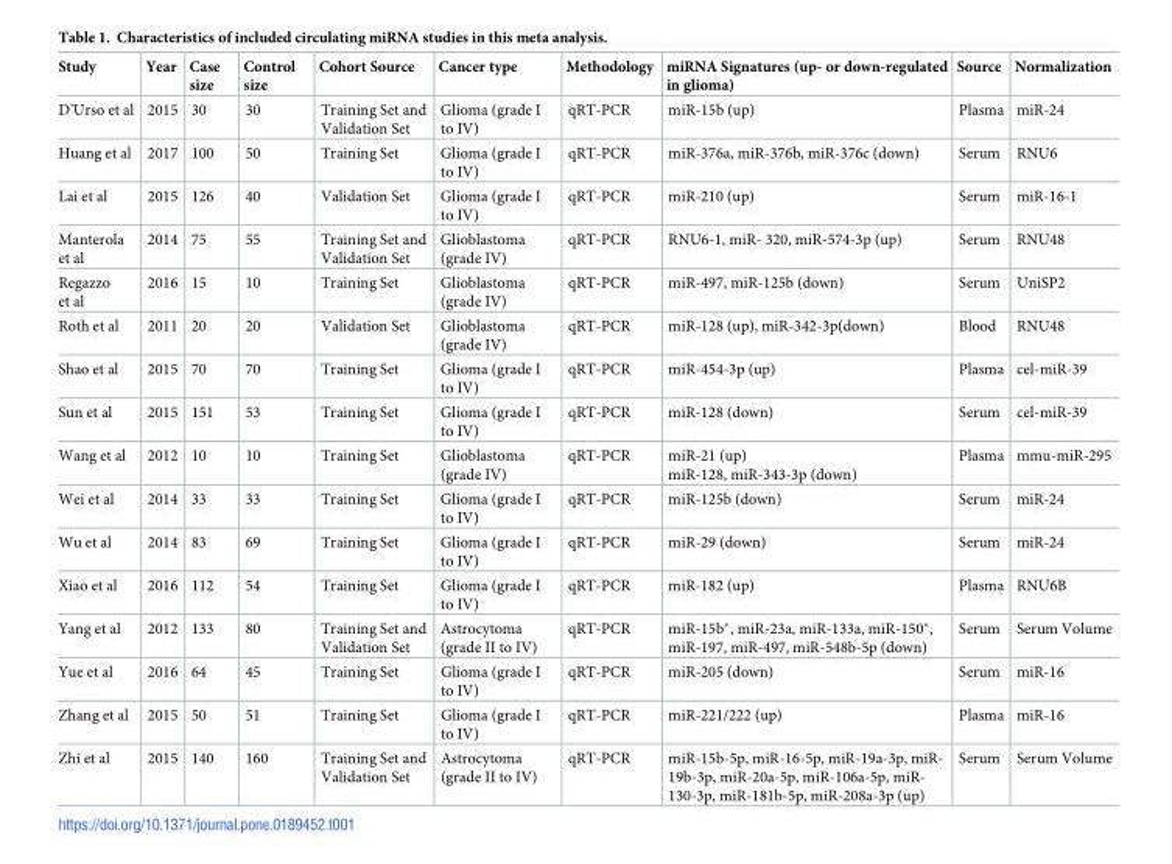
<table><thead><tr><td>Study</td><td>Year</td><td>Case size</td><td>Control size</td><td>Cohort Source</td><td>Cancer type</td><td>Methodology</td><td>miRNA Signatures (up- or down-regulated in glioma)</td><td>Source</td><td>Normalization</td></tr></thead><tbody><tr><td>D’Urso et al</td><td>2015</td><td>30</td><td>30</td><td>Training Set and Validation Set</td><td>Glioma (grade I to IV)</td><td>qRT-PCR</td><td>miR-15b (up)</td><td>Plasma</td><td>miR-24</td></tr><tr><td>Huang et al</td><td>2017</td><td>100</td><td>50</td><td>Training Set</td><td>Glioma (grade I to IV)</td><td>qRT-PCR</td><td>miR-376a, miR-376b, miR-376c (down)</td><td>Serum</td><td>RNU6</td></tr><tr><td>Lai et al</td><td>2015</td><td>126</td><td>40</td><td>Validation Set</td><td>Glioma (grade I to IV)</td><td>qRT-PCR</td><td>miR-210 (up)</td><td>Serum</td><td>miR-16-1</td></tr><tr><td>Manterola et al</td><td>2014</td><td>75</td><td>55</td><td>Training Set and Validation Set</td><td>Glioblastoma (grade IV)</td><td>qRT-PCR</td><td>RNU6-1, miR- 320, miR-574-3p (up)</td><td>Serum</td><td>RNU48</td></tr><tr><td>Regazzo et al</td><td>2016</td><td>15</td><td>10</td><td>Training Set</td><td>Glioblastoma (grade IV)</td><td>qRT-PCR</td><td>miR-497, miR-125b (down)</td><td>Serum</td><td>UniSP2</td></tr><tr><td>Roth et al</td><td>2011</td><td>20</td><td>20</td><td>Validation Set</td><td>Glioblastoma (grade IV)</td><td>qRT-PCR</td><td>miR-128 (up), miR-342-3p(down)</td><td>Blood</td><td>RNU48</td></tr><tr><td>Shao et al</td><td>2015</td><td>70</td><td>70</td><td>Training Set</td><td>Glioma (grade I to IV)</td><td>qRT-PCR</td><td>miR-454-3p (up)</td><td>Plasma</td><td>cel-miR-39</td></tr><tr><td>Sun et al</td><td>2015</td><td>151</td><td>53</td><td>Training Set</td><td>Glioma (grade I to IV)</td><td>qRT-PCR</td><td>miR-128 (down)</td><td>Serum</td><td>cel-miR-39</td></tr><tr><td>Wang et al</td><td>2012</td><td>10</td><td>10</td><td>Training Set</td><td>Glioblastoma (grade IV)</td><td>qRT-PCR</td><td>miR-21 (up) miR-128, miR-343-3p (down)</td><td>Plasma</td><td>mmu-miR-295</td></tr><tr><td>Wei et al</td><td>2014</td><td>33</td><td>33</td><td>Training Set</td><td>Glioma (grade I to IV)</td><td>qRT-PCR</td><td>miR-125b (down)</td><td>Serum</td><td>miR-24</td></tr><tr><td>Wu et al</td><td>2014</td><td>83</td><td>69</td><td>Training Set</td><td>Glioma (grade I to IV)</td><td>qRT-PCR</td><td>miR-29 (down)</td><td>Serum</td><td>miR-24</td></tr><tr><td>Xiao et al</td><td>2016</td><td>112</td><td>54</td><td>Training Set</td><td>Glioma (grade I to IV)</td><td>qRT-PCR</td><td>miR-182 (up)</td><td>Plasma</td><td>RNU6B</td></tr><tr><td>Yang et al</td><td>2012</td><td>133</td><td>80</td><td>Training Set and Validation Set</td><td>Astrocytoma (grade II to IV)</td><td>qRT-PCR</td><td>miR-15b*, miR-23a, miR-133a, miR-150*, miR-197, miR-497, miR-548b-5p (down)</td><td>Serum</td><td>Serum Volume</td></tr><tr><td>Yue et al</td><td>2016</td><td>64</td><td>45</td><td>Training Set</td><td>Glioma (grade I to IV)</td><td>qRT-PCR</td><td>miR-205 (down)</td><td>Serum</td><td>miR-16</td></tr><tr><td>Zhang et al</td><td>2015</td><td>50</td><td>51</td><td>Training Set</td><td>Glioma (grade I to IV)</td><td>qRT-PCR</td><td>miR-221/222 (up)</td><td>Plasma</td><td>miR-16</td></tr><tr><td>Zhi et al</td><td>2015</td><td>140</td><td>160</td><td>Training Set and Validation Set</td><td>Astrocytoma (grade II to IV)</td><td>qRT-PCR</td><td>miR-15b-5p, miR-16-5p, miR-19a-3p, miR- 19b-3p, miR-20a-5p, miR-106a-5p, miR- 130-3p, miR-181b-5p, miR-208a-3p (up)</td><td>Serum</td><td>Serum Volume</td></tr></tbody></table>